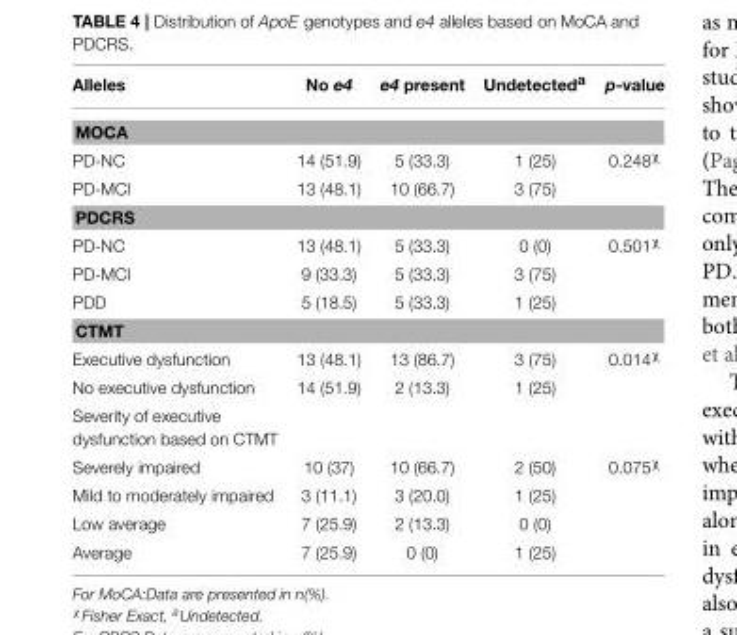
<table><thead><tr><td>Alleles</td><td>No e4</td><td>e4 present</td><td>Undetected<sup>a</sup></td><td>p-value</td></tr></thead><tbody><tr><td colspan="5">MOCA</td></tr><tr><td>PD-NC</td><td>14 (51.9)</td><td>5 (33.3)</td><td>1 (25)</td><td>0.248<sup>χ</sup></td></tr><tr><td>PD-MCI</td><td>13 (48.1)</td><td>10 (66.7)</td><td>3 (75)</td><td></td></tr><tr><td colspan="5">PDCRS</td></tr><tr><td>PD-NC</td><td>13 (48.1)</td><td>5 (33.3)</td><td>0 (0)</td><td>0.501<sup>χ</sup></td></tr><tr><td>PD-MCI</td><td>9 (33.3)</td><td>5 (33.3)</td><td>3 (75)</td><td></td></tr><tr><td>PDD</td><td>5 (18.5)</td><td>5 (33.3)</td><td>1 (25)</td><td></td></tr><tr><td colspan="5">CTMT</td></tr><tr><td>Executive dysfunction</td><td>13 (48.1)</td><td>13 (86.7)</td><td>3 (75)</td><td>0.014<sup>χ</sup></td></tr><tr><td>No executive dysfunction</td><td>14 (51.9)</td><td>2 (13.3)</td><td>1 (25)</td><td></td></tr><tr><td colspan="5">Severity of executive dysfunction based on CTMT</td></tr><tr><td>Severely impaired</td><td>10 (37)</td><td>10 (66.7)</td><td>2 (50)</td><td>0.075<sup>χ</sup></td></tr><tr><td>Mild to moderately impaired</td><td>3 (11.1)</td><td>3 (20.0)</td><td>1 (25)</td><td></td></tr><tr><td>Low average</td><td>7 (25.9)</td><td>2 (13.3)</td><td>0 (0)</td><td></td></tr><tr><td>Average</td><td>7 (25.9)</td><td>0 (0)</td><td>1 (25)</td><td></td></tr></tbody></table>